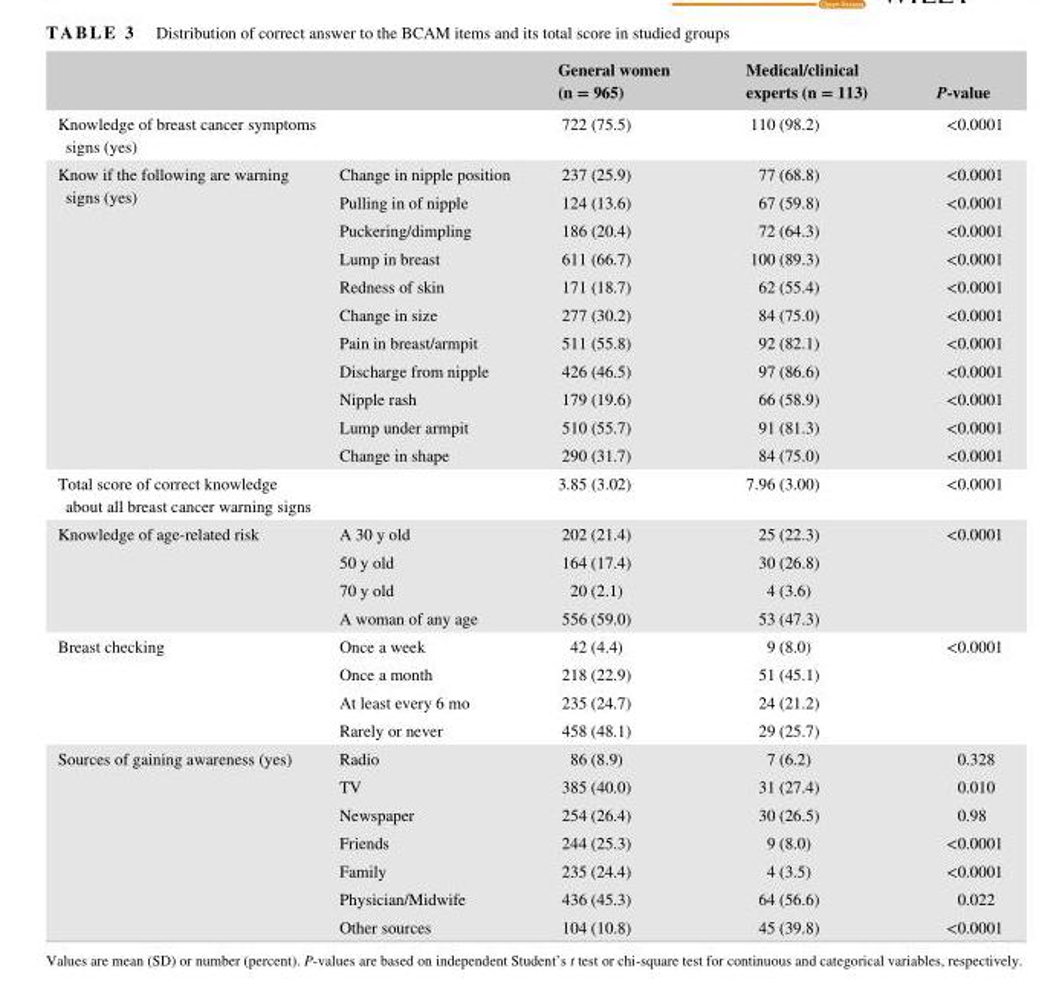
<table><thead><tr><td></td><td></td><td>General women (n = 965)</td><td>Medical/clinical experts (n = 113)</td><td>P- value</td></tr></thead><tbody><tr><td>Knowledge of breast cancer symptoms signs (yes)</td><td></td><td>722 (75.5)</td><td>110 (98.2)</td><td>&lt;0.0001</td></tr><tr><td rowspan="11">Know if the following are warning signs (yes)</td><td>Change in nipple position</td><td>237 (25.9)</td><td>77 (68.8)</td><td>&lt;0.0001</td></tr><tr><td>Pulling in of nipple</td><td>124 (13.6)</td><td>67 (59.8)</td><td>&lt;0.0001</td></tr><tr><td>Puckering/dimpling</td><td>186 (20.4)</td><td>72 (64.3)</td><td>&lt;0.0001</td></tr><tr><td>Lump in breast</td><td>611 (66.7)</td><td>100 (89.3)</td><td>&lt;0.0001</td></tr><tr><td>Redness of skin</td><td>171 (18.7)</td><td>62 (55.4)</td><td>&lt;0.0001</td></tr><tr><td>Change in size</td><td>277 (30.2)</td><td>84 (75.0)</td><td>&lt;0.0001</td></tr><tr><td>Pain in breast/armpit</td><td>511 (55.8)</td><td>92 (82.1)</td><td>&lt;0.0001</td></tr><tr><td>Discharge from nipple</td><td>426 (46.5)</td><td>97 (86.6)</td><td>&lt;0.0001</td></tr><tr><td>Nipple rash</td><td>179 (19.6)</td><td>66 (58.9)</td><td>&lt;0.0001</td></tr><tr><td>Lump under armpit</td><td>510 (55.7)</td><td>91 (81.3)</td><td>&lt;0.0001</td></tr><tr><td>Change in shape</td><td>290 (31.7)</td><td>84 (75.0)</td><td>&lt;0.0001</td></tr><tr><td>Total score of correct knowledge about all breast cancer warning signs</td><td></td><td>3.85 (3.02)</td><td>7.96 (3.00)</td><td>&lt;0.0001</td></tr><tr><td rowspan="4">Knowledge of age- related risk</td><td>A 30 y old</td><td>202 (21.4)</td><td>25 (22.3)</td><td>&lt;0.0001</td></tr><tr><td>50 y old</td><td>164 (17.4)</td><td>30 (26.8)</td><td></td></tr><tr><td>70 y old</td><td>20 (2.1)</td><td>4 (3.6)</td><td></td></tr><tr><td>A woman of any age</td><td>556 (59.0)</td><td>53 (47.3)</td><td></td></tr><tr><td rowspan="4">Breast checking</td><td>Once a week</td><td>42 (4.4)</td><td>9 (8.0)</td><td>&lt;0.0001</td></tr><tr><td>Once a month</td><td>218 (22.9)</td><td>51 (45.1)</td><td></td></tr><tr><td>At least every 6 mo</td><td>235 (24.7)</td><td>24 (21.2)</td><td></td></tr><tr><td>Rarely or never</td><td>458 (48.1)</td><td>29 (25.7)</td><td></td></tr><tr><td rowspan="7">Sources of gaining awareness (yes)</td><td>Radio</td><td>86 (8.9)</td><td>7 (6.2)</td><td>0.328</td></tr><tr><td>TV</td><td>385 (40.0)</td><td>31 (27.4)</td><td>0.010</td></tr><tr><td>Newspaper</td><td>254 (26.4)</td><td>30 (26.5)</td><td>0.98</td></tr><tr><td>Friends</td><td>244 (25.3)</td><td>9 (8.0)</td><td>&lt;0.0001</td></tr><tr><td>Family</td><td>235 (24.4)</td><td>4 (3.5)</td><td>&lt;0.0001</td></tr><tr><td>Physician/Midwife</td><td>436 (45.3)</td><td>64 (56.6)</td><td>0.022</td></tr><tr><td>Other sources</td><td>104 (10.8)</td><td>45 (39.8)</td><td>&lt;0.0001</td></tr></tbody></table>